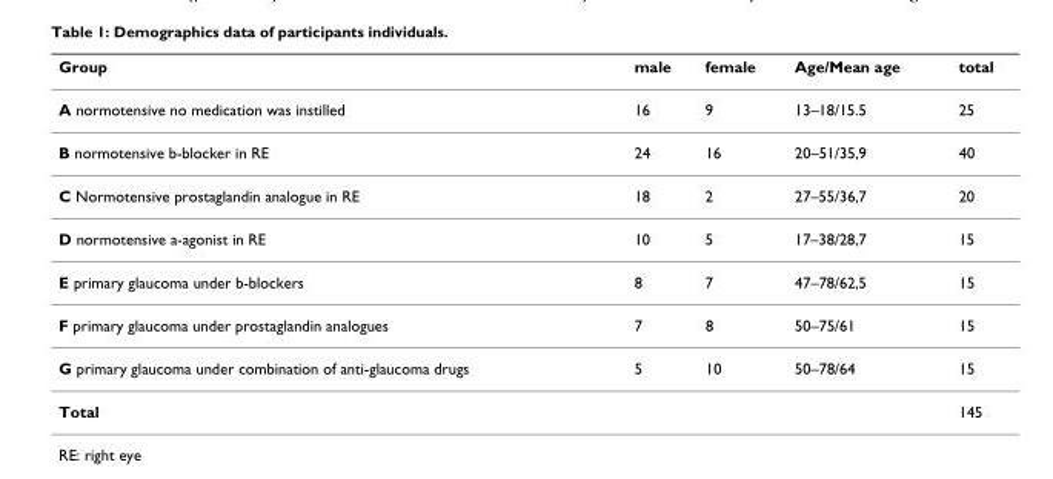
<table><thead><tr><td>Group</td><td>male</td><td>female</td><td>Age/Mean age</td><td>total</td></tr></thead><tbody><tr><td>A normotensive no medication was instilled</td><td>16</td><td>9</td><td>13–18/15.5</td><td>25</td></tr><tr><td>B normotensive b-blocker in RE</td><td>24</td><td>16</td><td>20–51/35,9</td><td>40</td></tr><tr><td>C Normotensive prostaglandin analogue in RE</td><td>18</td><td>2</td><td>27–55/36,7</td><td>20</td></tr><tr><td>D normotensive a-agonist in RE</td><td>10</td><td>5</td><td>17–38/28,7</td><td>15</td></tr><tr><td>E primary glaucoma under b-blockers</td><td>8</td><td>7</td><td>47–78/62,5</td><td>15</td></tr><tr><td>F primary glaucoma under prostaglandin analogues</td><td>7</td><td>8</td><td>50–75/61</td><td>15</td></tr><tr><td>G primary glaucoma under combination of anti-glaucoma drugs</td><td>5</td><td>10</td><td>50–78/64</td><td>15</td></tr><tr><td>Total</td><td></td><td></td><td></td><td>145</td></tr></tbody></table>